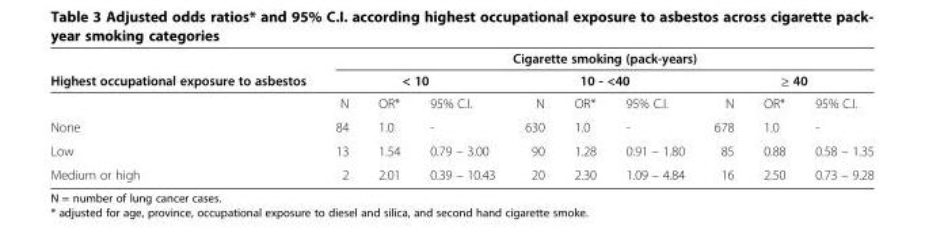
<table><thead><tr><td rowspan="3">Highest occupational exposure to asbestos</td><td colspan="9">Cigarette smoking (pack-years)</td></tr><tr><td colspan="3">&lt; 10</td><td colspan="3">10 - &lt;40</td><td colspan="3">≥ 40</td></tr><tr><td>N</td><td>OR*</td><td>95% C.I.</td><td>N</td><td>OR*</td><td>95% C.I.</td><td>N</td><td>OR*</td><td>95% C.I.</td></tr></thead><tbody><tr><td>None</td><td>84</td><td>1.0</td><td>-</td><td>630</td><td>1.0</td><td>-</td><td>678</td><td>1.0</td><td>-</td></tr><tr><td>Low</td><td>13</td><td>1.54</td><td>0.79 – 3.00</td><td>90</td><td>1.28</td><td>0.91 – 1.80</td><td>85</td><td>0.88</td><td>0.58 – 1.35</td></tr><tr><td>Medium or high</td><td>2</td><td>2.01</td><td>0.39 – 10.43</td><td>20</td><td>2.30</td><td>1.09 – 4.84</td><td>16</td><td>2.50</td><td>0.73 – 9.28</td></tr></tbody></table>